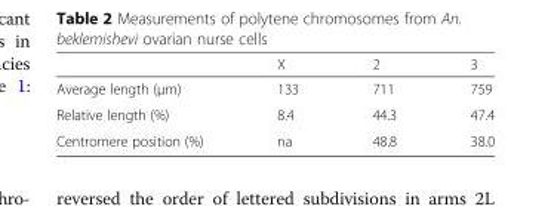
<table><thead><tr><td></td><td>X</td><td>2</td><td>3</td></tr></thead><tbody><tr><td>Average length (μm)</td><td>133</td><td>711</td><td>759</td></tr><tr><td>Relative length (%)</td><td>8.4</td><td>44.3</td><td>47.4</td></tr><tr><td>Centromere position (%)</td><td>na</td><td>48.8</td><td>38.0</td></tr></tbody></table>